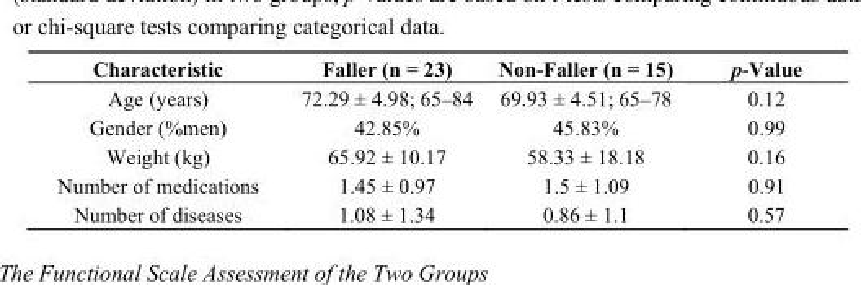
<table><thead><tr><td>Characteristic</td><td>Faller (n = 23)</td><td>Non-Faller (n = 15)</td><td>p-Value</td></tr></thead><tbody><tr><td>Age (years)</td><td>72.29 ± 4.98; 65–84</td><td>69.93 ± 4.51; 65–78</td><td>0.12</td></tr><tr><td>Gender (%men)</td><td>42.85%</td><td>45.83%</td><td>0.99</td></tr><tr><td>Weight (kg)</td><td>65.92 ± 10.17</td><td>58.33 ± 18.18</td><td>0.16</td></tr><tr><td>Number of medications</td><td>1.45 ± 0.97</td><td>1.5 ± 1.09</td><td>0.91</td></tr><tr><td>Number of diseases</td><td>1.08 ± 1.34</td><td>0.86 ± 1.1</td><td>0.57</td></tr></tbody></table>